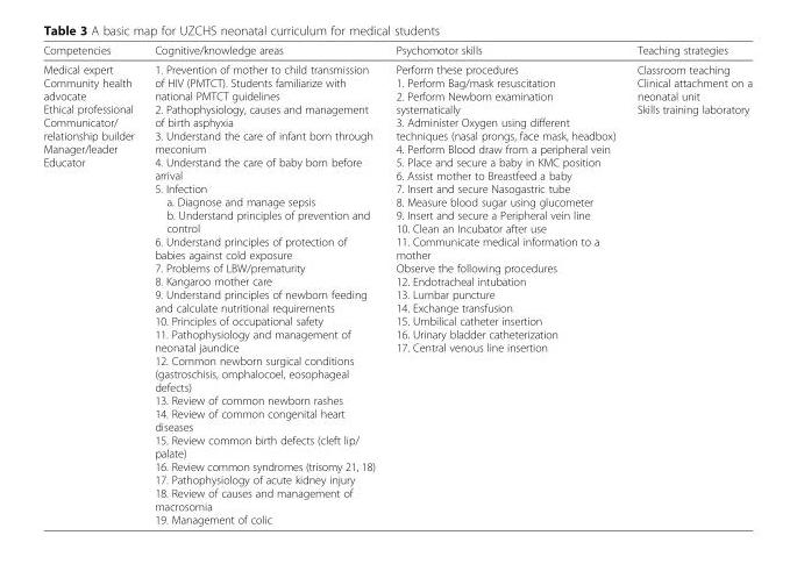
<table><thead><tr><td>Competencies</td><td>Cognitive/knowledge areas</td><td>Psychomotor skills</td><td>Teaching strategies</td></tr></thead><tbody><tr><td>Medical expert Community health advocate Ethical professional Communicator/ relationship builder Manager/leader Educator</td><td>1. Prevention of mother to child transmission of HIV (PMTCT). Students familiarize with national PMTCT guidelines 2. Pathophysiology, causes and management of birth asphyxia 3. Understand the care of infant born through meconium 4. Understand the care of baby born before arrival 5. Infection a. Diagnose and manage sepsis b. Understand principles of prevention and control 6. Understand principles of protection of babies against cold exposure 7. Problems of LBW/prematurity 8. Kangaroo mother care 9. Understand principles of newborn feeding and calculate nutritional requirements 10. Principles of occupational safety 11. Pathophysiology and management of neonatal jaundice 12. Common newborn surgical conditions (gastroschisis, omphalocoel, eosophageal defects) 13. Review of common newborn rashes 14. Review of common congenital heart diseases 15. Review common birth defects (cleft lip/ palate) 16. Review common syndromes (trisomy 21, 18) 17. Pathophysiology of acute kidney injury 18. Review of causes and management of macrosomia 19. Management of colic</td><td>Perform these procedures 1. Perform Bag/mask resuscitation 2. Perform Newborn examination systematically 3. Administer Oxygen using different techniques (nasal prongs, face mask, headbox) 4. Perform Blood draw from a peripheral vein 5. Place and secure a baby in KMC position 6. Assist mother to Breastfeed a baby 7. Insert and secure Nasogastric tube 8. Measure blood sugar using glucometer 9. Insert and secure a Peripheral vein line 10. Clean an Incubator after use 11. Communicate medical information to a mother Observe the following procedures 12. Endotracheal intubation 13. Lumbar puncture 14. Exchange transfusion 15. Umbilical catheter insertion 16. Urinary bladder catheterization 17. Central venous line insertion</td><td>Classroom teaching Clinical attachment on a neonatal unit Skills training laboratory</td></tr></tbody></table>